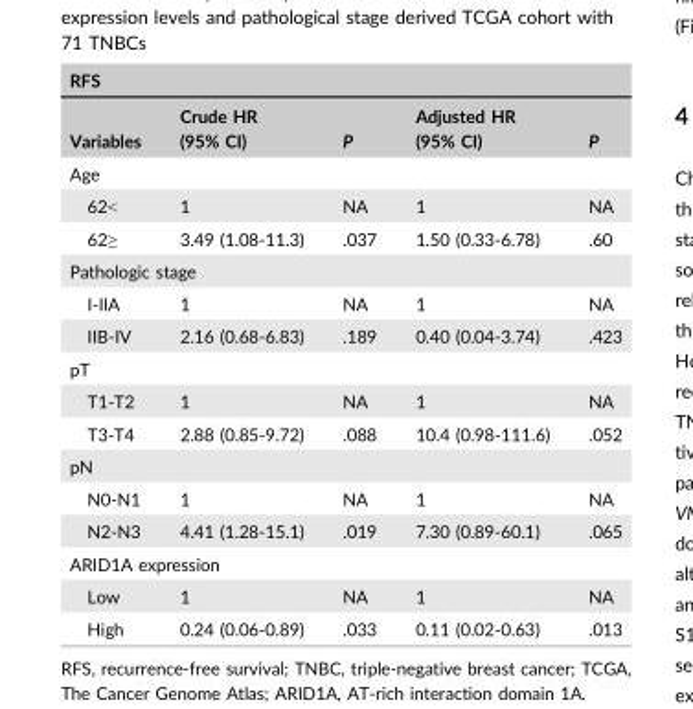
<table><thead><tr><td colspan="5">RFS</td></tr><tr><td>Variables</td><td>Crude HR (95% CI)</td><td>P</td><td>Adjusted HR (95% CI)</td><td>P</td></tr></thead><tbody><tr><td colspan="5">Age</td></tr><tr><td>62&lt;</td><td>1</td><td>NA</td><td>1</td><td>NA</td></tr><tr><td>62≥</td><td>3.49 (1.08-11.3)</td><td>.037</td><td>1.50 (0.33-6.78)</td><td>.60</td></tr><tr><td colspan="5">Pathologic stage</td></tr><tr><td>I-IIA</td><td>1</td><td>NA</td><td>1</td><td>NA</td></tr><tr><td>IIB-IV</td><td>2.16 (0.68-6.83)</td><td>.189</td><td>0.40 (0.04-3.74)</td><td>.423</td></tr><tr><td colspan="5">pT</td></tr><tr><td>T1-T2</td><td>1</td><td>NA</td><td>1</td><td>NA</td></tr><tr><td>T3-T4</td><td>2.88 (0.85-9.72)</td><td>.088</td><td>10.4 (0.98-111.6)</td><td>.052</td></tr><tr><td colspan="5">pN</td></tr><tr><td>N0-N1</td><td>1</td><td>NA</td><td>1</td><td>NA</td></tr><tr><td>N2-N3</td><td>4.41 (1.28-15.1)</td><td>.019</td><td>7.30 (0.89-60.1)</td><td>.065</td></tr><tr><td colspan="5">ARID1A expression</td></tr><tr><td>Low</td><td>1</td><td>NA</td><td>1</td><td>NA</td></tr><tr><td>High</td><td>0.24 (0.06-0.89)</td><td>.033</td><td>0.11 (0.02-0.63)</td><td>.013</td></tr></tbody></table>